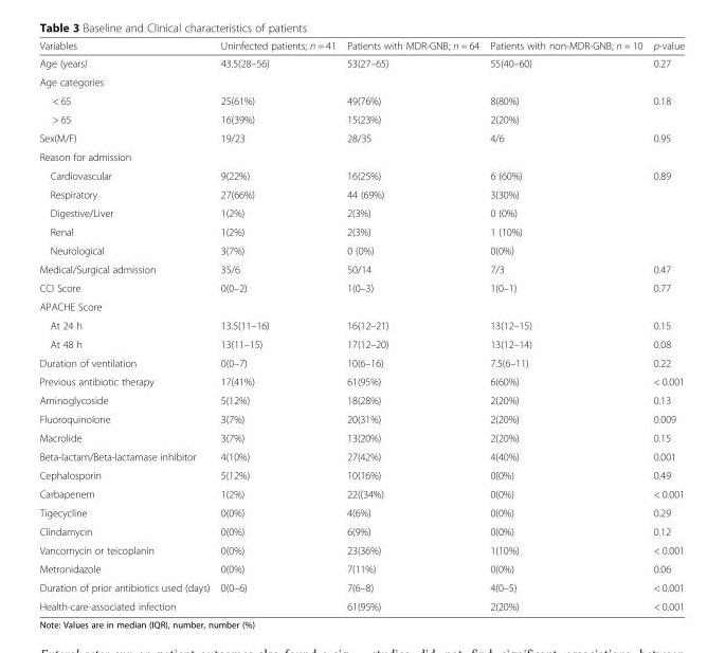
<table><thead><tr><td>Variables</td><td>Uninfected patients; n = 41</td><td>Patients with MDR-GNB; n = 64</td><td>Patients with non-MDR-GNB; n = 10</td><td>p-value</td></tr></thead><tbody><tr><td>Age (years)</td><td>43.5(28–56)</td><td>53(27–65)</td><td>55(40–60)</td><td>0.27</td></tr><tr><td colspan="5">Age categories</td></tr><tr><td>&lt; 65</td><td>25(61%)</td><td>49(76%)</td><td>8(80%)</td><td>0.18</td></tr><tr><td>&gt; 65</td><td>16(39%)</td><td>15(23%)</td><td>2(20%)</td><td></td></tr><tr><td>Sex(M/F)</td><td>19/23</td><td>28/35</td><td>4/6</td><td>0.95</td></tr><tr><td colspan="5">Reason for admission</td></tr><tr><td>Cardiovascular</td><td>9(22%)</td><td>16(25%)</td><td>6 (60%)</td><td>0.89</td></tr><tr><td>Respiratory</td><td>27(66%)</td><td>44 (69%)</td><td>3(30%)</td><td></td></tr><tr><td>Digestive/Liver</td><td>1(2%)</td><td>2(3%)</td><td>0 (0%)</td><td></td></tr><tr><td>Renal</td><td>1(2%)</td><td>2(3%)</td><td>1 (10%)</td><td></td></tr><tr><td>Neurological</td><td>3(7%)</td><td>0 (0%)</td><td>0(0%)</td><td></td></tr><tr><td>Medical/Surgical admission</td><td>35/6</td><td>50/14</td><td>7/3</td><td>0.47</td></tr><tr><td>CCI Score</td><td>0(0–2)</td><td>1(0–3)</td><td>1(0–1)</td><td>0.77</td></tr><tr><td colspan="5">APACHE Score</td></tr><tr><td>At 24 h</td><td>13.5(11–16)</td><td>16(12–21)</td><td>13(12–15)</td><td>0.15</td></tr><tr><td>At 48 h</td><td>13(11–15)</td><td>17(12–20)</td><td>13(12–14)</td><td>0.08</td></tr><tr><td>Duration of ventilation</td><td>0(0–7)</td><td>10(6–16)</td><td>7.5(6–11)</td><td>0.22</td></tr><tr><td>Previous antibiotic therapy</td><td>17(41%)</td><td>61(95%)</td><td>6(60%)</td><td>&lt; 0.001</td></tr><tr><td>Aminoglycoside</td><td>5(12%)</td><td>18(28%)</td><td>2(20%)</td><td>0.13</td></tr><tr><td>Fluoroquinolone</td><td>3(7%)</td><td>20(31%)</td><td>2(20%)</td><td>0.009</td></tr><tr><td>Macrolide</td><td>3(7%)</td><td>13(20%)</td><td>2(20%)</td><td>0.15</td></tr><tr><td>Beta-lactam/Beta-lactamase inhibitor</td><td>4(10%)</td><td>27(42%)</td><td>4(40%)</td><td>0.001</td></tr><tr><td>Cephalosporin</td><td>5(12%)</td><td>10(16%)</td><td>0(0%)</td><td>0.49</td></tr><tr><td>Carbapenem</td><td>1(2%)</td><td>22((34%)</td><td>0(0%)</td><td>&lt; 0.001</td></tr><tr><td>Tigecycline</td><td>0(0%)</td><td>4(6%)</td><td>0(0%)</td><td>0.29</td></tr><tr><td>Clindamycin</td><td>0(0%)</td><td>6(9%)</td><td>0(0%)</td><td>0.12</td></tr><tr><td>Vancomycin or teicoplanin</td><td>0(0%)</td><td>23(36%)</td><td>1(10%)</td><td>&lt; 0.001</td></tr><tr><td>Metronidazole</td><td>0(0%)</td><td>7(11%)</td><td>0(0%)</td><td>0.06</td></tr><tr><td>Duration of prior antibiotics used (days)</td><td>0(0–6)</td><td>7(6–8)</td><td>4(0–5)</td><td>&lt; 0.001</td></tr><tr><td>Health-care-associated infection</td><td></td><td>61(95%)</td><td>2(20%)</td><td>&lt; 0.001</td></tr></tbody></table>